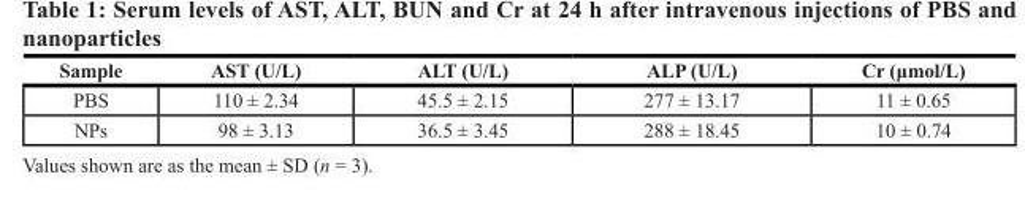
<table><thead><tr><td>Sample</td><td>AST (U/L)</td><td>ALT (U/L)</td><td>ALP (U/L)</td><td>Cr (μmol/L)</td></tr></thead><tbody><tr><td>PBS</td><td>110 ± 2.34</td><td>45.5 ± 2.15</td><td>277 ± 13.17</td><td>11 ± 0.65</td></tr><tr><td>NPs</td><td>98 ± 3.13</td><td>36.5 ± 3.45</td><td>288 ± 18.45</td><td>10 ± 0.74</td></tr></tbody></table>